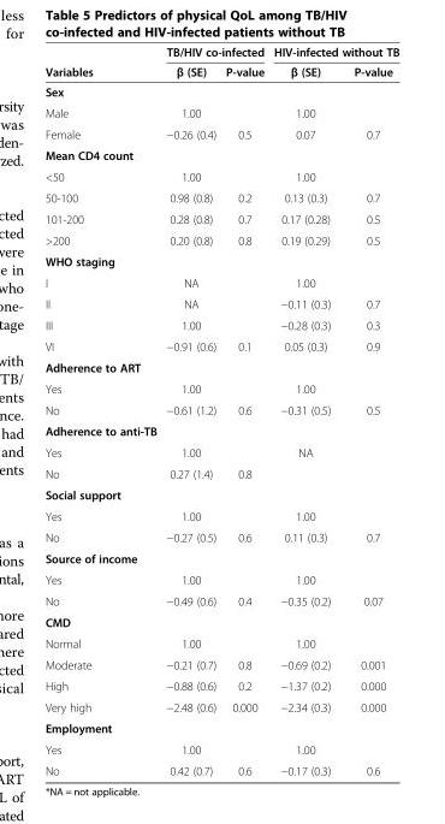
<table><thead><tr><td rowspan="2">Variables</td><td colspan="2">TB/HIV co-infected</td><td colspan="2">HIV-infected without TB</td></tr><tr><td>β (SE)</td><td>P-value</td><td>β (SE)</td><td>P-value</td></tr></thead><tbody><tr><td colspan="5">Sex</td></tr><tr><td>Male</td><td>1.00</td><td></td><td>1.00</td><td></td></tr><tr><td>Female</td><td>−0.26 (0.4)</td><td>0.5</td><td>0.07</td><td>0.7</td></tr><tr><td colspan="5">Mean CD4 count</td></tr><tr><td>&lt;50</td><td>1.00</td><td></td><td>1.00</td><td></td></tr><tr><td>50-100</td><td>0.98 (0.8)</td><td>0.2</td><td>0.13 (0.3)</td><td>0.7</td></tr><tr><td>101-200</td><td>0.28 (0.8)</td><td>0.7</td><td>0.17 (0.28)</td><td>0.5</td></tr><tr><td>&gt;200</td><td>0.20 (0.8)</td><td>0.8</td><td>0.19 (0.29)</td><td>0.5</td></tr><tr><td colspan="5">WHO staging</td></tr><tr><td>I</td><td>NA</td><td></td><td>1.00</td><td></td></tr><tr><td>II</td><td>NA</td><td></td><td>−0.11 (0.3)</td><td>0.7</td></tr><tr><td>III</td><td>1.00</td><td></td><td>−0.28 (0.3)</td><td>0.3</td></tr><tr><td>VI</td><td>−0.91 (0.6)</td><td>0.1</td><td>0.05 (0.3)</td><td>0.9</td></tr><tr><td colspan="5">Adherence to ART</td></tr><tr><td>Yes</td><td>1.00</td><td></td><td>1.00</td><td></td></tr><tr><td>No</td><td>−0.61 (1.2)</td><td>0.6</td><td>−0.31 (0.5)</td><td>0.5</td></tr><tr><td colspan="5">Adherence to anti-TB</td></tr><tr><td>Yes</td><td>1.00</td><td></td><td>NA</td><td></td></tr><tr><td>No</td><td>0.27 (1.4)</td><td>0.8</td><td></td><td></td></tr><tr><td colspan="5">Social support</td></tr><tr><td>Yes</td><td>1.00</td><td></td><td>1.00</td><td></td></tr><tr><td>No</td><td>−0.27 (0.5)</td><td>0.6</td><td>0.11 (0.3)</td><td>0.7</td></tr><tr><td colspan="5">Source of income</td></tr><tr><td>Yes</td><td>1.00</td><td></td><td>1.00</td><td></td></tr><tr><td>No</td><td>−0.49 (0.6)</td><td>0.4</td><td>−0.35 (0.2)</td><td>0.07</td></tr><tr><td colspan="5">CMD</td></tr><tr><td>Normal</td><td>1.00</td><td></td><td>1.00</td><td></td></tr><tr><td>Moderate</td><td>−0.21 (0.7)</td><td>0.8</td><td>−0.69 (0.2)</td><td>0.001</td></tr><tr><td>High</td><td>−0.88 (0.6)</td><td>0.2</td><td>−1.37 (0.2)</td><td>0.000</td></tr><tr><td>Very high</td><td>−2.48 (0.6)</td><td>0.000</td><td>−2.34 (0.3)</td><td>0.000</td></tr><tr><td colspan="5">Employment</td></tr><tr><td>Yes</td><td>1.00</td><td></td><td>1.00</td><td></td></tr><tr><td>No</td><td>0.42 (0.7)</td><td>0.6</td><td>−0.17 (0.3)</td><td>0.6</td></tr></tbody></table>